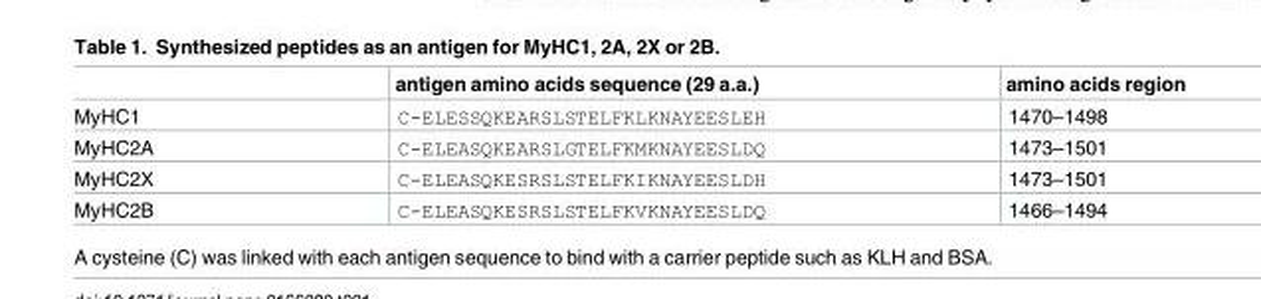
<table><thead><tr><td></td><td>antigen amino acids sequence (29 a.a.)</td><td>amino acids region</td></tr></thead><tbody><tr><td>MyHC1</td><td>C-ELESSQKEARSLSTELFKLKNAYEESLEH</td><td>1470–1498</td></tr><tr><td>MyHC2A</td><td>C-ELEASQKEARSLGTELFKMKNAYEESLDQ</td><td>1473–1501</td></tr><tr><td>MyHC2X</td><td>C-ELEASQKESRSLSTELFKIKNAYEESLDH</td><td>1473–1501</td></tr><tr><td>MyHC2B</td><td>C-ELEASQKESRSLSTELFKVKNAYEESLDQ</td><td>1466–1494</td></tr></tbody></table>